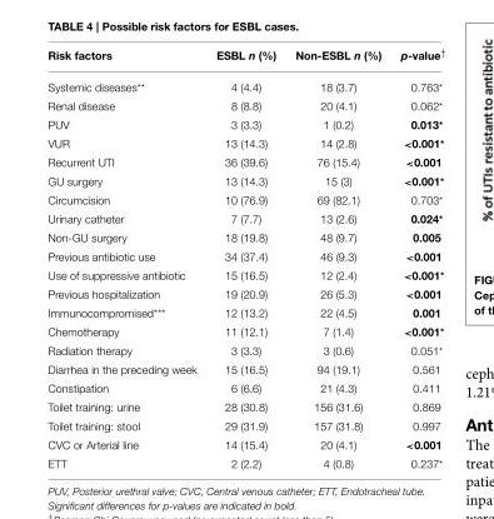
<table><thead><tr><td>Risk factors</td><td>ESBL n (%)</td><td>Non-ESBL n (%)</td><td>p-value<sup>†</sup></td></tr></thead><tbody><tr><td>Systemic diseases**</td><td>4 (4.4)</td><td>18 (3.7)</td><td>0.763*</td></tr><tr><td>Renal disease</td><td>8 (8.8)</td><td>20 (4.1)</td><td>0.062*</td></tr><tr><td>PUV</td><td>3 (3.3)</td><td>1 (0.2)</td><td>0.013*</td></tr><tr><td>VUR</td><td>13 (14.3)</td><td>14 (2.8)</td><td>&lt;0.001*</td></tr><tr><td>Recurrent UTI</td><td>36 (39.6)</td><td>76 (15.4)</td><td>&lt;0.001</td></tr><tr><td>GU surgery</td><td>13 (14.3)</td><td>15 (3)</td><td>&lt;0.001*</td></tr><tr><td>Circumcision</td><td>10 (76.9)</td><td>69 (82.1)</td><td>0.703*</td></tr><tr><td>Urinary catheter</td><td>7 (7.7)</td><td>13 (2.6)</td><td>0.024*</td></tr><tr><td>Non-GU surgery</td><td>18 (19.8)</td><td>48 (9.7)</td><td>0.005</td></tr><tr><td>Previous antibiotic use</td><td>34 (37.4)</td><td>46 (9.3)</td><td>&lt;0.001</td></tr><tr><td>Use of suppressive antibiotic</td><td>15 (16.5)</td><td>12 (2.4)</td><td>&lt;0.001*</td></tr><tr><td>Previous hospitalization</td><td>19 (20.9)</td><td>26 (5.3)</td><td>&lt;0.001</td></tr><tr><td>Immunocompromised***</td><td>12 (13.2)</td><td>22 (4.5)</td><td>0.001</td></tr><tr><td>Chemotherapy</td><td>11 (12.1)</td><td>7 (1.4)</td><td>&lt;0.001*</td></tr><tr><td>Radiation therapy</td><td>3 (3.3)</td><td>3 (0.6)</td><td>0.051*</td></tr><tr><td>Diarrhea in the preceding week</td><td>15 (16.5)</td><td>94 (19.1)</td><td>0.561</td></tr><tr><td>Constipation</td><td>6 (6.6)</td><td>21 (4.3)</td><td>0.411</td></tr><tr><td>Toilet training: urine</td><td>28 (30.8)</td><td>156 (31.6)</td><td>0.869</td></tr><tr><td>Toilet training: stool</td><td>29 (31.9)</td><td>157 (31.8)</td><td>0.997</td></tr><tr><td>CVC or Arterial line</td><td>14 (15.4)</td><td>20 (4.1)</td><td>&lt;0.001</td></tr><tr><td>ETT</td><td>2 (2.2)</td><td>4 (0.8)</td><td>0.237*</td></tr></tbody></table>